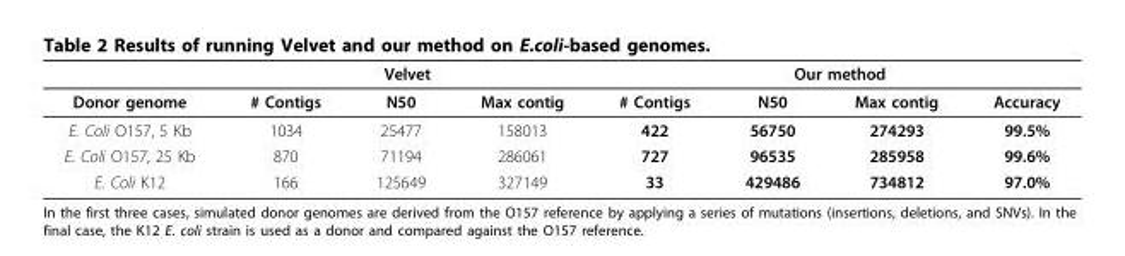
<table><thead><tr><td rowspan="2">Donor genome</td><td colspan="3">Velvet</td><td colspan="4">Our method</td></tr><tr><td># Contigs</td><td>N50</td><td>Max contig</td><td># Contigs</td><td>N50</td><td>Max contig</td><td>Accuracy</td></tr></thead><tbody><tr><td>E. Coli O157, 5 Kb</td><td>1034</td><td>25477</td><td>158013</td><td>422</td><td>56750</td><td>274293</td><td>99.5%</td></tr><tr><td>E. Coli O157, 25 Kb</td><td>870</td><td>71194</td><td>286061</td><td>727</td><td>96535</td><td>285958</td><td>99.6%</td></tr><tr><td>E. Coli K12</td><td>166</td><td>125649</td><td>327149</td><td>33</td><td>429486</td><td>734812</td><td>97.0%</td></tr></tbody></table>